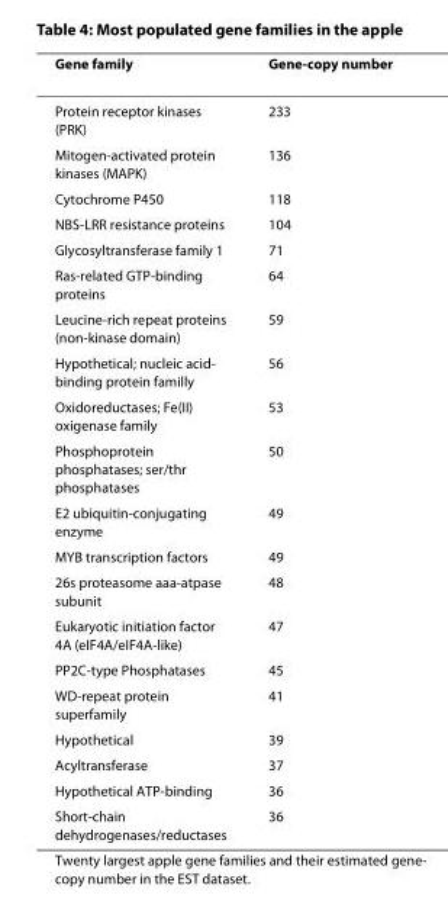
<table><thead><tr><td>Gene family</td><td>Gene-copy number</td></tr></thead><tbody><tr><td>Protein receptor kinases (PRK)</td><td>233</td></tr><tr><td>Mitogen-activated protein kinases (MAPK)</td><td>136</td></tr><tr><td>Cytochrome P450</td><td>118</td></tr><tr><td>NBS-LRR resistance proteins</td><td>104</td></tr><tr><td>Glycosyltransferase family 1</td><td>71</td></tr><tr><td>Ras-related GTP-binding proteins</td><td>64</td></tr><tr><td>Leucine-rich repeat proteins (non-kinase domain)</td><td>59</td></tr><tr><td>Hypothetical; nucleic acid- binding protein familly</td><td>56</td></tr><tr><td>Oxidoreductases; Fe(II) oxigenase family</td><td>53</td></tr><tr><td>Phosphoprotein phosphatases; ser/thr phosphatases</td><td>50</td></tr><tr><td>E2 ubiquitin-conjugating enzyme</td><td>49</td></tr><tr><td>MYB transcription factors</td><td>49</td></tr><tr><td>26s proteasome aaa-atpase subunit</td><td>48</td></tr><tr><td>Eukaryotic initiation factor 4A (eIF4A/eIF4A-like)</td><td>47</td></tr><tr><td>PP2C-type Phosphatases</td><td>45</td></tr><tr><td>WD-repeat protein superfamily</td><td>41</td></tr><tr><td>Hypothetical</td><td>39</td></tr><tr><td>Acyltransferase</td><td>37</td></tr><tr><td>Hypothetical ATP-binding</td><td>36</td></tr><tr><td>Short-chain dehydrogenases/reductases</td><td>36</td></tr></tbody></table>